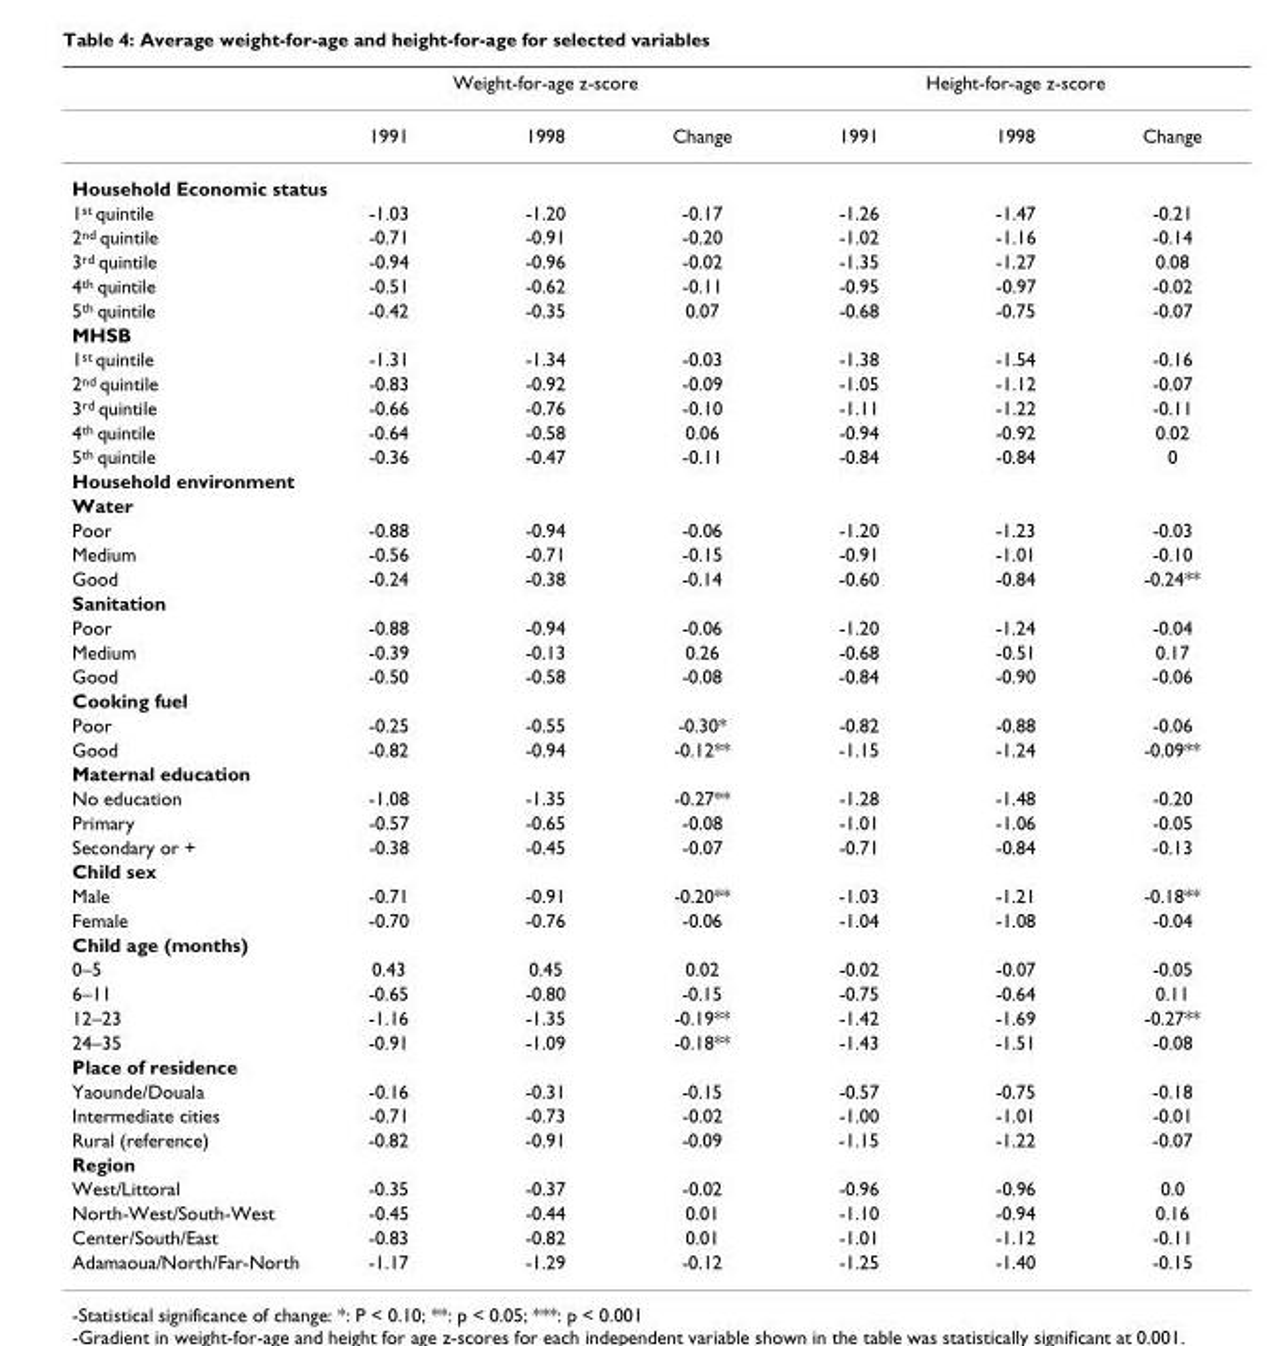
<table><thead><tr><td rowspan="2"></td><td colspan="3">Weight-for-age z-score</td><td colspan="3">Height-for-age z-score</td></tr><tr><td>1991</td><td>1998</td><td>Change</td><td>1991</td><td>1998</td><td>Change</td></tr></thead><tbody><tr><td colspan="7">Household Economic status</td></tr><tr><td>1st quintile</td><td>-1.03</td><td>-1.20</td><td>-0.17</td><td>-1.26</td><td>-1.47</td><td>-0.21</td></tr><tr><td>2nd quintile</td><td>-0.71</td><td>-0.91</td><td>-0.20</td><td>-1.02</td><td>-1.16</td><td>-0.14</td></tr><tr><td>3rd quintile</td><td>-0.94</td><td>-0.96</td><td>-0.02</td><td>-1.35</td><td>-1.27</td><td>0.08</td></tr><tr><td>4th quintile</td><td>-0.51</td><td>-0.62</td><td>-0.11</td><td>-0.95</td><td>-0.97</td><td>-0.02</td></tr><tr><td>5th quintile</td><td>-0.42</td><td>-0.35</td><td>0.07</td><td>-0.68</td><td>-0.75</td><td>-0.07</td></tr><tr><td colspan="7">MHSB</td></tr><tr><td>1st quintile</td><td>-1.31</td><td>-1.34</td><td>-0.03</td><td>-1.38</td><td>-1.54</td><td>-0.16</td></tr><tr><td>2nd quintile</td><td>-0.83</td><td>-0.92</td><td>-0.09</td><td>-1.05</td><td>-1.12</td><td>-0.07</td></tr><tr><td>3rd quintile</td><td>-0.66</td><td>-0.76</td><td>-0.10</td><td>-1.11</td><td>-1.22</td><td>-0.11</td></tr><tr><td>4th quintile</td><td>-0.64</td><td>-0.58</td><td>0.06</td><td>-0.94</td><td>-0.92</td><td>0.02</td></tr><tr><td>5th quintile</td><td>-0.36</td><td>-0.47</td><td>-0.11</td><td>-0.84</td><td>-0.84</td><td>0</td></tr><tr><td colspan="7">Household environment</td></tr><tr><td colspan="7">Water</td></tr><tr><td>Poor</td><td>-0.88</td><td>-0.94</td><td>-0.06</td><td>-1.20</td><td>-1.23</td><td>-0.03</td></tr><tr><td>Medium</td><td>-0.56</td><td>-0.71</td><td>-0.15</td><td>-0.91</td><td>-1.01</td><td>-0.10</td></tr><tr><td>Good</td><td>-0.24</td><td>-0.38</td><td>-0.14</td><td>-0.60</td><td>-0.84</td><td>-0.24**</td></tr><tr><td colspan="7">Sanitation</td></tr><tr><td>Poor</td><td>-0.88</td><td>-0.94</td><td>-0.06</td><td>-1.20</td><td>-1.24</td><td>-0.04</td></tr><tr><td>Medium</td><td>-0.39</td><td>-0.13</td><td>0.26</td><td>-0.68</td><td>-0.51</td><td>0.17</td></tr><tr><td>Good</td><td>-0.50</td><td>-0.58</td><td>-0.08</td><td>-0.84</td><td>-0.90</td><td>-0.06</td></tr><tr><td colspan="7">Cooking fuel</td></tr><tr><td>Poor</td><td>-0.25</td><td>-0.55</td><td>-0.30*</td><td>-0.82</td><td>-0.88</td><td>-0.06</td></tr><tr><td>Good</td><td>-0.82</td><td>-0.94</td><td>-0.12**</td><td>-1.15</td><td>-1.24</td><td>-0.09**</td></tr><tr><td colspan="7">Maternal education</td></tr><tr><td>No education</td><td>-1.08</td><td>-1.35</td><td>-0.27**</td><td>-1.28</td><td>-1.48</td><td>-0.20</td></tr><tr><td>Primary</td><td>-0.57</td><td>-0.65</td><td>-0.08</td><td>-1.01</td><td>-1.06</td><td>-0.05</td></tr><tr><td>Secondary or +</td><td>-0.38</td><td>-0.45</td><td>-0.07</td><td>-0.71</td><td>-0.84</td><td>-0.13</td></tr><tr><td colspan="7">Child sex</td></tr><tr><td>Male</td><td>-0.71</td><td>-0.91</td><td>-0.20**</td><td>-1.03</td><td>-1.21</td><td>-0.18**</td></tr><tr><td>Female</td><td>-0.70</td><td>-0.76</td><td>-0.06</td><td>-1.04</td><td>-1.08</td><td>-0.04</td></tr><tr><td colspan="7">Child age (months)</td></tr><tr><td>0–5</td><td>0.43</td><td>0.45</td><td>0.02</td><td>-0.02</td><td>-0.07</td><td>-0.05</td></tr><tr><td>6–11</td><td>-0.65</td><td>-0.80</td><td>-0.15</td><td>-0.75</td><td>-0.64</td><td>0.11</td></tr><tr><td>12–23</td><td>-1.16</td><td>-1.35</td><td>-0.19**</td><td>-1.42</td><td>-1.69</td><td>-0.27**</td></tr><tr><td>24–35</td><td>-0.91</td><td>-1.09</td><td>-0.18**</td><td>-1.43</td><td>-1.51</td><td>-0.08</td></tr><tr><td colspan="7">Place of residence</td></tr><tr><td>Yaounde/Douala</td><td>-0.16</td><td>-0.31</td><td>-0.15</td><td>-0.57</td><td>-0.75</td><td>-0.18</td></tr><tr><td>Intermediate cities</td><td>-0.71</td><td>-0.73</td><td>-0.02</td><td>-1.00</td><td>-1.01</td><td>-0.01</td></tr><tr><td>Rural (reference)</td><td>-0.82</td><td>-0.91</td><td>-0.09</td><td>-1.15</td><td>-1.22</td><td>-0.07</td></tr><tr><td colspan="7">Region</td></tr><tr><td>West/Littoral</td><td>-0.35</td><td>-0.37</td><td>-0.02</td><td>-0.96</td><td>-0.96</td><td>0.0</td></tr><tr><td>North-West/South-West</td><td>-0.45</td><td>-0.44</td><td>0.01</td><td>-1.10</td><td>-0.94</td><td>0.16</td></tr><tr><td>Center/South/East</td><td>-0.83</td><td>-0.82</td><td>0.01</td><td>-1.01</td><td>-1.12</td><td>-0.11</td></tr><tr><td>Adamaoua/North/Far-North</td><td>-1.17</td><td>-1.29</td><td>-0.12</td><td>-1.25</td><td>-1.40</td><td>-0.15</td></tr></tbody></table>